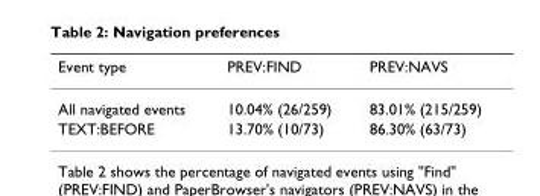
<table><thead><tr><td>Event type</td><td>PREV:FIND</td><td>PREV:NAVS</td></tr></thead><tbody><tr><td>All navigated events</td><td>10.04% (26/259)</td><td>83.01% (215/259)</td></tr><tr><td>TEXT:BEFORE</td><td>13.70% (10/73)</td><td>86.30% (63/73)</td></tr></tbody></table>